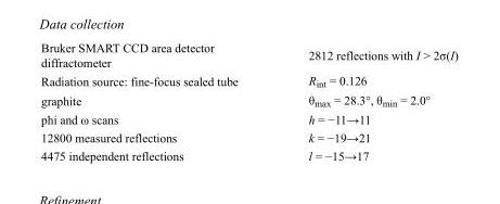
<table><tbody><tr><td>Bruker SMART CCD area detector diffractometer</td><td>2812 reflections with I &gt; 2σ(I)</td></tr><tr><td>Radiation source: fine-focus sealed tube</td><td>R<sub>int</sub> = 0.126</td></tr><tr><td>graphite</td><td>θ<sub>max</sub> = 28.3°, θ<sub>min</sub> = 2.0°</td></tr><tr><td>phi and ω scans</td><td>h = −11→11</td></tr><tr><td>12800 measured reflections</td><td>k = −19→21</td></tr><tr><td>4475 independent reflections</td><td>l = −15→17</td></tr></tbody></table>